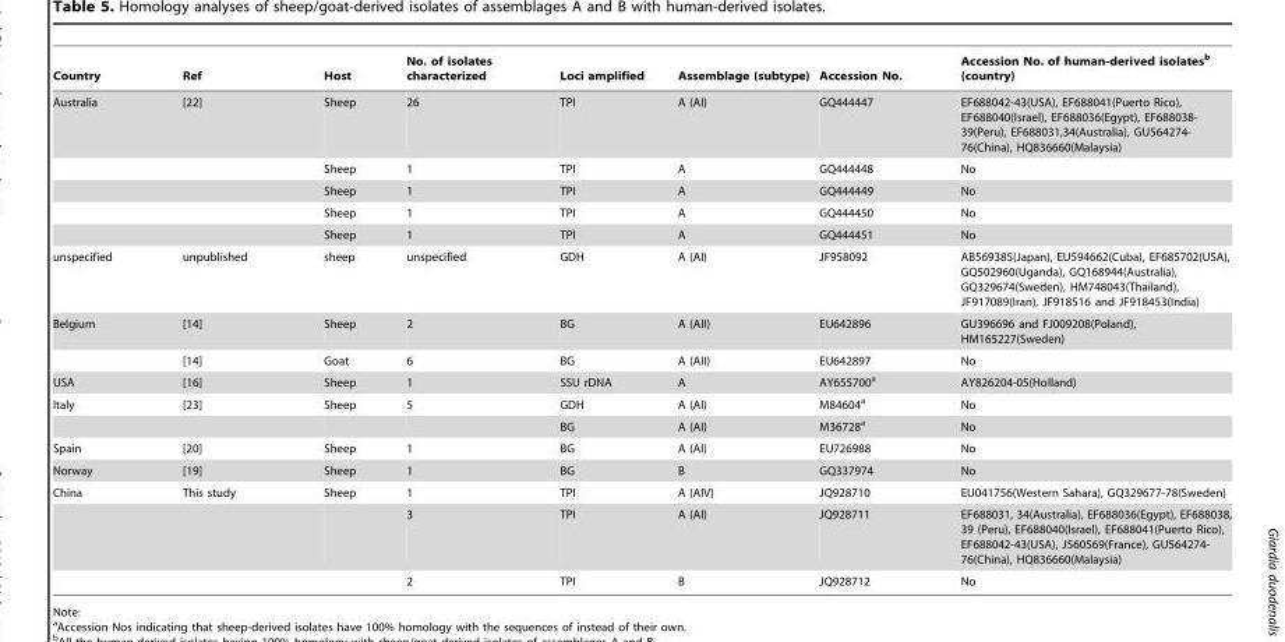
<table><thead><tr><td>Country</td><td>Ref</td><td>Host</td><td>No. of isolates characterized</td><td>Loci amplified</td><td>Assemblage (subtype)</td><td>Accession No.</td><td>Accession No. of human-derived isolates<sup>b</sup> (country)</td></tr></thead><tbody><tr><td rowspan="5">Australia</td><td>[22]</td><td>Sheep</td><td>26</td><td>TPI</td><td>A (AI)</td><td>GQ444447</td><td>EF688042-43(USA), EF688041(Puerto Rico), EF688040(Israel), EF688036(Egypt), EF688038- 39(Peru), EF688031,34(Australia), GU564274- 76(China), HQ836660(Malaysia)</td></tr><tr><td></td><td>Sheep</td><td>1</td><td>TPI</td><td>A</td><td>GQ444448</td><td>No</td></tr><tr><td></td><td>Sheep</td><td>1</td><td>TPI</td><td>A</td><td>GQ444449</td><td>No</td></tr><tr><td></td><td>Sheep</td><td>1</td><td>TPI</td><td>A</td><td>GQ444450</td><td>No</td></tr><tr><td></td><td>Sheep</td><td>1</td><td>TPI</td><td>A</td><td>GQ444451</td><td>No</td></tr><tr><td>unspecified</td><td>unpublished</td><td>sheep</td><td>unspecified</td><td>GDH</td><td>A (AI)</td><td>JF958092</td><td>AB569385(Japan), EU594662(Cuba), EF685702(USA), GQ502960(Uganda), GQ168944(Australia), GQ329674(Sweden), HM748043(Thailand), JF917089(Iran), JF918516 and JF918453(India)</td></tr><tr><td rowspan="2">Belgium</td><td>[14]</td><td>Sheep</td><td>2</td><td>BG</td><td>A (AII)</td><td>EU642896</td><td>GU396696 and FJ009208(Poland), HM165227(Sweden)</td></tr><tr><td>[14]</td><td>Goat</td><td>6</td><td>BG</td><td>A (AII)</td><td>EU642897</td><td>No</td></tr><tr><td>USA</td><td>[16]</td><td>Sheep</td><td>1</td><td>SSU rDNA</td><td>A</td><td>AY655700<sup>a</sup></td><td>AY826204-05(Holland)</td></tr><tr><td rowspan="2">Italy</td><td>[23]</td><td>Sheep</td><td>5</td><td>GDH</td><td>A (AI)</td><td>M84604<sup>a</sup></td><td>No</td></tr><tr><td></td><td></td><td></td><td>BG</td><td>A (AI)</td><td>M36728<sup>a</sup></td><td>No</td></tr><tr><td>Spain</td><td>[20]</td><td>Sheep</td><td>1</td><td>BG</td><td>A (AI)</td><td>EU726988</td><td>No</td></tr><tr><td>Norway</td><td>[19]</td><td>Sheep</td><td>1</td><td>BG</td><td>B</td><td>GQ337974</td><td>No</td></tr><tr><td rowspan="3">China</td><td>This study</td><td>Sheep</td><td>1</td><td>TPI</td><td>A (AIV)</td><td>JQ928710</td><td>EU041756(Western Sahara), GQ329677-78(Sweden)</td></tr><tr><td></td><td></td><td>3</td><td>TPI</td><td>A (AI)</td><td>JQ928711</td><td>EF688031, 34(Australia), EF688036(Egypt), EF688038, 39 (Peru), EF688040(Israel), EF688041(Puerto Rico), EF688042-43(USA), J560569(France), GU564274- 76(China), HQ836660(Malaysia)</td></tr><tr><td></td><td></td><td>2</td><td>TPI</td><td>B</td><td>JQ928712</td><td>No</td></tr></tbody></table>